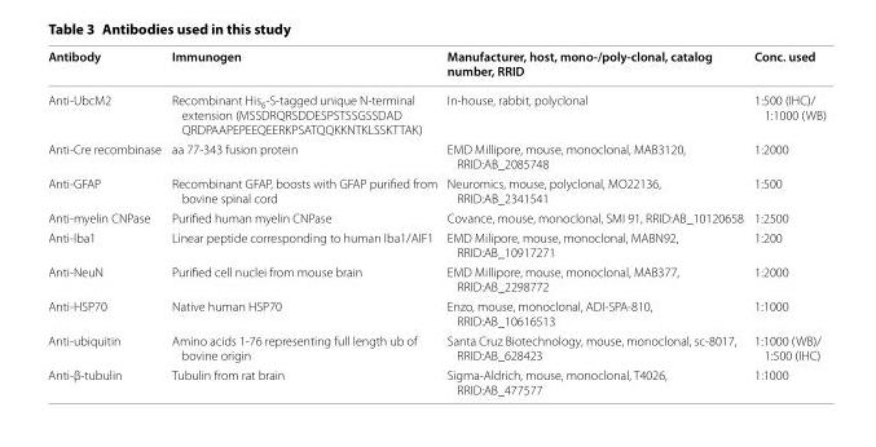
<table><thead><tr><td>Antibody</td><td>Immunogen</td><td>Manufacturer, host, mono‑/poly‑clonal, catalog number, RRID</td><td>Conc. used</td></tr></thead><tbody><tr><td>Anti-UbcM2</td><td>Recombinant His<sub>6</sub>-S-tagged unique N-terminal extension (MSSDRQRSDDESPSTSSGSSDAD QRDPAAPEPEEQEERKPSATQQKKNTKLSSKTTAK)</td><td>In-house, rabbit, polyclonal</td><td>1:500 (IHC)/ 1:1000 (WB)</td></tr><tr><td>Anti-Cre recombinase</td><td>aa 77-343 fusion protein</td><td>EMD Millipore, mouse, monoclonal, MAB3120, RRID:AB_2085748</td><td>1:2000</td></tr><tr><td>Anti-GFAP</td><td>Recombinant GFAP, boosts with GFAP purified from bovine spinal cord</td><td>Neuromics, mouse, polyclonal, MO22136, RRID:AB_2341541</td><td>1:500</td></tr><tr><td>Anti-myelin CNPase</td><td>Purified human myelin CNPase</td><td>Covance, mouse, monoclonal, SMI 91, RRID:AB_10120658</td><td>1:2500</td></tr><tr><td>Anti-Iba1</td><td>Linear peptide corresponding to human Iba1/AIF1</td><td>EMD Milipore, mouse, monoclonal, MABN92, RRID:AB_10917271</td><td>1:200</td></tr><tr><td>Anti-NeuN</td><td>Purified cell nuclei from mouse brain</td><td>EMD Millipore, mouse, monoclonal, MAB377, RRID:AB_2298772</td><td>1:2000</td></tr><tr><td>Anti-HSP70</td><td>Native human HSP70</td><td>Enzo, mouse, monoclonal, ADI-SPA-810, RRID:AB_10616513</td><td>1:1000</td></tr><tr><td>Anti-ubiquitin</td><td>Amino acids 1-76 representing full length ub of bovine origin</td><td>Santa Cruz Biotechnology, mouse, monoclonal, sc-8017, RRID:AB_628423</td><td>1:1000 (WB)/ 1:500 (IHC)</td></tr><tr><td>Anti-β-tubulin</td><td>Tubulin from rat brain</td><td>Sigma-Aldrich, mouse, monoclonal, T4026, RRID:AB_477577</td><td>1:1000</td></tr></tbody></table>